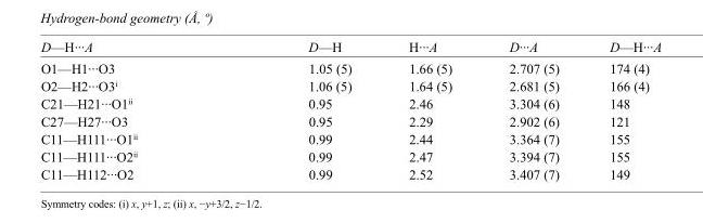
<table><tbody><tr><td>D—H···A</td><td>D—H</td><td>H···A</td><td>D···A</td><td>D—H···A</td></tr><tr><td>O1—H1···O3</td><td>1.05 (5)</td><td>1.66 (5)</td><td>2.707 (5)</td><td>174 (4)</td></tr><tr><td>O2—H2···O3<sup>i</sup></td><td>1.06 (5)</td><td>1.64 (5)</td><td>2.681 (5)</td><td>166 (4)</td></tr><tr><td>C21—H21···O1<sup>ii</sup></td><td>0.95</td><td>2.46</td><td>3.304 (6)</td><td>148</td></tr><tr><td>C27—H27···O3</td><td>0.95</td><td>2.29</td><td>2.902 (6)</td><td>121</td></tr><tr><td>C11—H111···O1<sup>ii</sup></td><td>0.99</td><td>2.44</td><td>3.364 (7)</td><td>155</td></tr><tr><td>C11—H111···O2<sup>ii</sup></td><td>0.99</td><td>2.47</td><td>3.394 (7)</td><td>155</td></tr><tr><td>C11—H112···O2</td><td>0.99</td><td>2.52</td><td>3.407 (7)</td><td>149</td></tr></tbody></table>